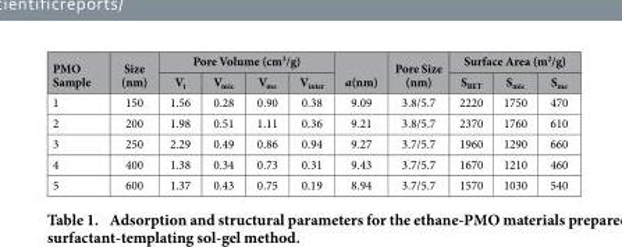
<table><thead><tr><td rowspan="2">PMO Sample</td><td rowspan="2">Size (nm)</td><td colspan="4">Pore Volume (cm<sup>3</sup>/g)</td><td rowspan="2">a(nm)</td><td rowspan="2">Pore Size (nm)</td><td colspan="3">Surface Area (m<sup>2</sup>/g)</td></tr><tr><td>V<sub>t</sub></td><td>V<sub>mic</sub></td><td>V<sub>me</sub></td><td>V<sub>inter</sub></td><td>S<sub>BET</sub></td><td>S<sub>mic</sub></td><td>S<sub>me</sub></td></tr></thead><tbody><tr><td>1</td><td>150</td><td>1.56</td><td>0.28</td><td>0.90</td><td>0.38</td><td>9.09</td><td>3.8/5.7</td><td>2220</td><td>1750</td><td>470</td></tr><tr><td>2</td><td>200</td><td>1.98</td><td>0.51</td><td>1.11</td><td>0.36</td><td>9.21</td><td>3.8/5.7</td><td>2370</td><td>1760</td><td>610</td></tr><tr><td>3</td><td>250</td><td>2.29</td><td>0.49</td><td>0.86</td><td>0.94</td><td>9.27</td><td>3.7/5.7</td><td>1960</td><td>1290</td><td>660</td></tr><tr><td>4</td><td>400</td><td>1.38</td><td>0.34</td><td>0.73</td><td>0.31</td><td>9.43</td><td>3.7/5.7</td><td>1670</td><td>1210</td><td>460</td></tr><tr><td>5</td><td>600</td><td>1.37</td><td>0.43</td><td>0.75</td><td>0.19</td><td>8.94</td><td>3.7/5.7</td><td>1570</td><td>1030</td><td>540</td></tr></tbody></table>